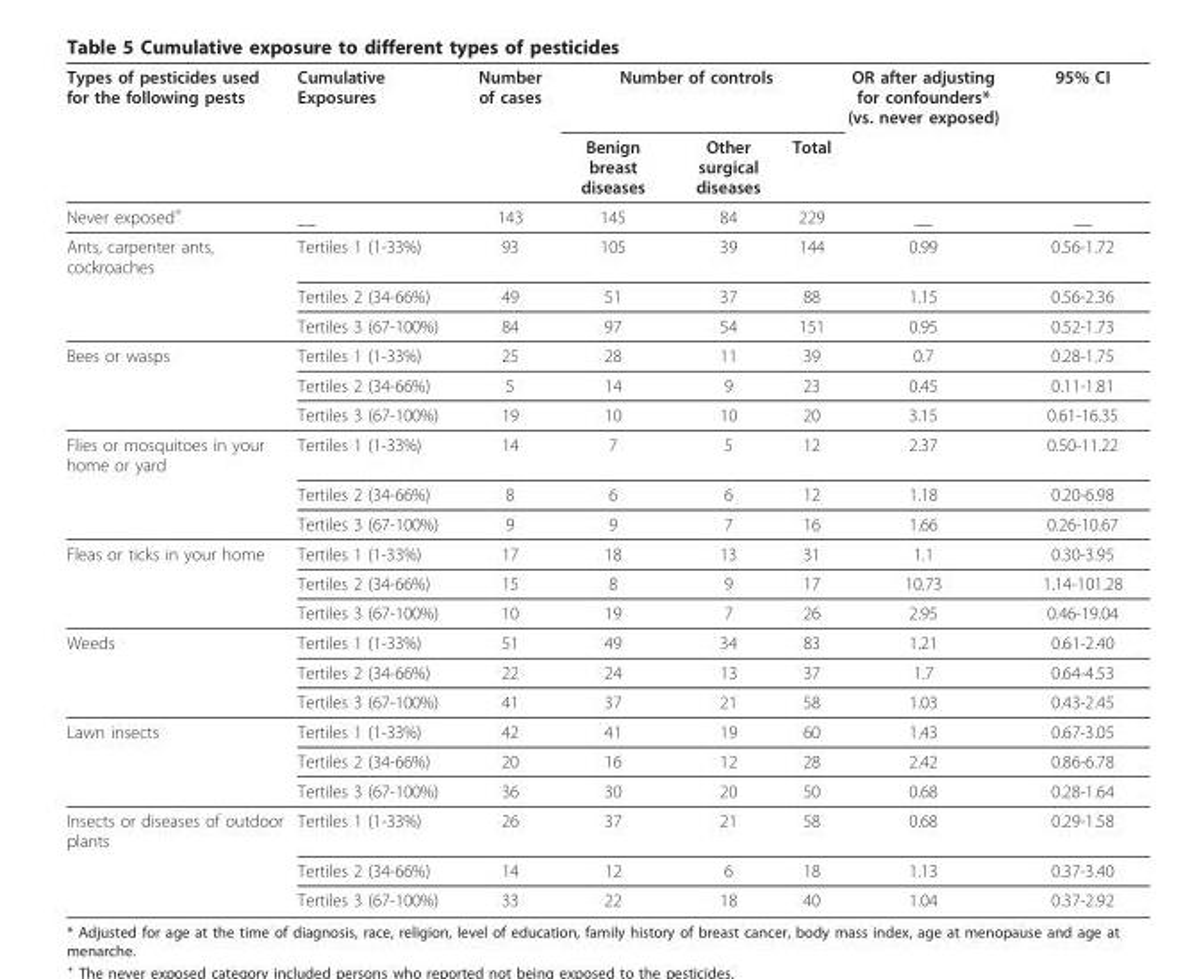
<table><thead><tr><td rowspan="2">Types of pesticides used for the following pests</td><td rowspan="2">Cumulative Exposures</td><td rowspan="2">Number of cases</td><td colspan="3">Number of controls</td><td rowspan="2">OR after adjusting for confounders* (vs. never exposed)</td><td rowspan="2">95% CI</td></tr><tr><td>Benign breast diseases</td><td>Other surgical diseases</td><td>Total</td></tr></thead><tbody><tr><td>Never exposed<sup>+</sup></td><td>__</td><td>143</td><td>145</td><td>84</td><td>229</td><td>__</td><td>__</td></tr><tr><td rowspan="3">Ants, carpenter ants, cockroaches</td><td>Tertiles 1 (1-33%)</td><td>93</td><td>105</td><td>39</td><td>144</td><td>0.99</td><td>0.56-1.72</td></tr><tr><td>Tertiles 2 (34-66%)</td><td>49</td><td>51</td><td>37</td><td>88</td><td>1.15</td><td>0.56-2.36</td></tr><tr><td>Tertiles 3 (67-100%)</td><td>84</td><td>97</td><td>54</td><td>151</td><td>0.95</td><td>0.52-1.73</td></tr><tr><td rowspan="3">Bees or wasps</td><td>Tertiles 1 (1-33%)</td><td>25</td><td>28</td><td>11</td><td>39</td><td>0.7</td><td>0.28-1.75</td></tr><tr><td>Tertiles 2 (34-66%)</td><td>5</td><td>14</td><td>9</td><td>23</td><td>0.45</td><td>0.11-1.81</td></tr><tr><td>Tertiles 3 (67-100%)</td><td>19</td><td>10</td><td>10</td><td>20</td><td>3.15</td><td>0.61-16.35</td></tr><tr><td rowspan="3">Flies or mosquitoes in your home or yard</td><td>Tertiles 1 (1-33%)</td><td>14</td><td>7</td><td>5</td><td>12</td><td>2.37</td><td>0.50-11.22</td></tr><tr><td>Tertiles 2 (34-66%)</td><td>8</td><td>6</td><td>6</td><td>12</td><td>1.18</td><td>0.20-6.98</td></tr><tr><td>Tertiles 3 (67-100%)</td><td>9</td><td>9</td><td>7</td><td>16</td><td>1.66</td><td>0.26-10.67</td></tr><tr><td rowspan="3">Fleas or ticks in your home</td><td>Tertiles 1 (1-33%)</td><td>17</td><td>18</td><td>13</td><td>31</td><td>1.1</td><td>0.30-3.95</td></tr><tr><td>Tertiles 2 (34-66%)</td><td>15</td><td>8</td><td>9</td><td>17</td><td>10.73</td><td>1.14-101.28</td></tr><tr><td>Tertiles 3 (67-100%)</td><td>10</td><td>19</td><td>7</td><td>26</td><td>2.95</td><td>0.46-19.04</td></tr><tr><td rowspan="3">Weeds</td><td>Tertiles 1 (1-33%)</td><td>51</td><td>49</td><td>34</td><td>83</td><td>1.21</td><td>0.61-2.40</td></tr><tr><td>Tertiles 2 (34-66%)</td><td>22</td><td>24</td><td>13</td><td>37</td><td>1.7</td><td>0.64-4.53</td></tr><tr><td>Tertiles 3 (67-100%)</td><td>41</td><td>37</td><td>21</td><td>58</td><td>1.03</td><td>0.43-2.45</td></tr><tr><td rowspan="3">Lawn insects</td><td>Tertiles 1 (1-33%)</td><td>42</td><td>41</td><td>19</td><td>60</td><td>1.43</td><td>0.67-3.05</td></tr><tr><td>Tertiles 2 (34-66%)</td><td>20</td><td>16</td><td>12</td><td>28</td><td>2.42</td><td>0.86-6.78</td></tr><tr><td>Tertiles 3 (67-100%)</td><td>36</td><td>30</td><td>20</td><td>50</td><td>0.68</td><td>0.28-1.64</td></tr><tr><td rowspan="3">Insects or diseases of outdoor plants</td><td>Tertiles 1 (1-33%)</td><td>26</td><td>37</td><td>21</td><td>58</td><td>0.68</td><td>0.29-1.58</td></tr><tr><td>Tertiles 2 (34-66%)</td><td>14</td><td>12</td><td>6</td><td>18</td><td>1.13</td><td>0.37-3.40</td></tr><tr><td>Tertiles 3 (67-100%)</td><td>33</td><td>22</td><td>18</td><td>40</td><td>1.04</td><td>0.37-2.92</td></tr></tbody></table>